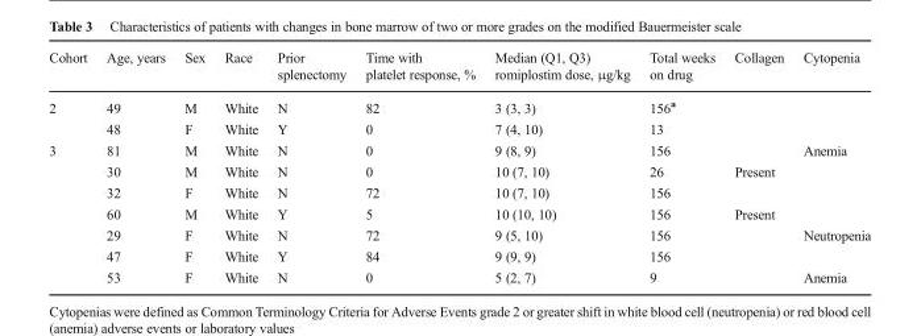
<table><thead><tr><td>Cohort</td><td>Age, years</td><td>Sex</td><td>Race</td><td>Prior splenectomy</td><td>Time with platelet response, %</td><td>Median (Q1, Q3) romiplostim dose, μg/kg</td><td>Total weeks on drug</td><td>Collagen</td><td>Cytopenia</td></tr></thead><tbody><tr><td rowspan="2">2</td><td>49</td><td>M</td><td>White</td><td>N</td><td>82</td><td>3 (3, 3)</td><td>156<sup>a</sup></td><td></td><td></td></tr><tr><td>48</td><td>F</td><td>White</td><td>Y</td><td>0</td><td>7 (4, 10)</td><td>13</td><td></td><td></td></tr><tr><td rowspan="7">3</td><td>81</td><td>M</td><td>White</td><td>N</td><td>0</td><td>9 (8, 9)</td><td>156</td><td></td><td>Anemia</td></tr><tr><td>30</td><td>M</td><td>White</td><td>N</td><td>0</td><td>10 (7, 10)</td><td>26</td><td>Present</td><td></td></tr><tr><td>32</td><td>F</td><td>White</td><td>N</td><td>72</td><td>10 (7, 10)</td><td>156</td><td></td><td></td></tr><tr><td>60</td><td>M</td><td>White</td><td>Y</td><td>5</td><td>10 (10, 10)</td><td>156</td><td>Present</td><td></td></tr><tr><td>29</td><td>F</td><td>White</td><td>N</td><td>72</td><td>9 (5, 10)</td><td>156</td><td></td><td>Neutropenia</td></tr><tr><td>47</td><td>F</td><td>White</td><td>Y</td><td>84</td><td>9 (9, 9)</td><td>156</td><td></td><td></td></tr><tr><td>53</td><td>F</td><td>White</td><td>N</td><td>0</td><td>5 (2, 7)</td><td>9</td><td></td><td>Anemia</td></tr></tbody></table>